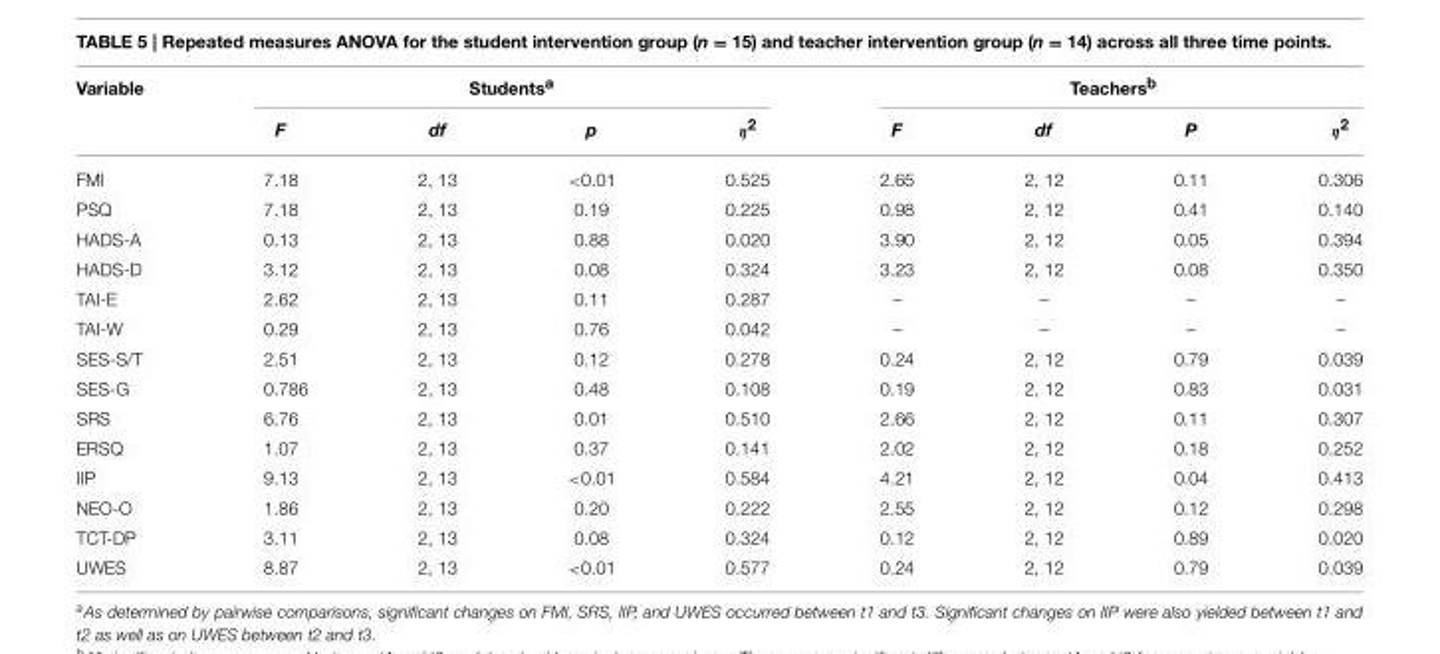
<table><thead><tr><td rowspan="2">Variable</td><td colspan="4">Students<sup>a</sup></td><td colspan="4">Teachers<sup>b</sup></td></tr><tr><td>F</td><td>df</td><td>p</td><td>η<sup>2</sup></td><td>F</td><td>df</td><td>P</td><td>η<sup>2</sup></td></tr></thead><tbody><tr><td>FMI</td><td>7.18</td><td>2, 13</td><td>&lt;0.01</td><td>0.525</td><td>2.65</td><td>2, 12</td><td>0.11</td><td>0.306</td></tr><tr><td>PSQ</td><td>7.18</td><td>2, 13</td><td>0.19</td><td>0.225</td><td>0.98</td><td>2, 12</td><td>0.41</td><td>0.140</td></tr><tr><td>HADS-A</td><td>0.13</td><td>2, 13</td><td>0.88</td><td>0.020</td><td>3.90</td><td>2, 12</td><td>0.05</td><td>0.394</td></tr><tr><td>HADS-D</td><td>3.12</td><td>2, 13</td><td>0.08</td><td>0.324</td><td>3.23</td><td>2, 12</td><td>0.08</td><td>0.350</td></tr><tr><td>TAI-E</td><td>2.62</td><td>2, 13</td><td>0.11</td><td>0.287</td><td>–</td><td>–</td><td>–</td><td>–</td></tr><tr><td>TAI-W</td><td>0.29</td><td>2, 13</td><td>0.76</td><td>0.042</td><td>–</td><td>–</td><td>–</td><td>–</td></tr><tr><td>SES-S/T</td><td>2.51</td><td>2, 13</td><td>0.12</td><td>0.278</td><td>0.24</td><td>2, 12</td><td>0.79</td><td>0.039</td></tr><tr><td>SES-G</td><td>0.786</td><td>2, 13</td><td>0.48</td><td>0.108</td><td>0.19</td><td>2, 12</td><td>0.83</td><td>0.031</td></tr><tr><td>SRS</td><td>6.76</td><td>2, 13</td><td>0.01</td><td>0.510</td><td>2.66</td><td>2, 12</td><td>0.11</td><td>0.307</td></tr><tr><td>ERSQ</td><td>1.07</td><td>2, 13</td><td>0.37</td><td>0.141</td><td>2.02</td><td>2, 12</td><td>0.18</td><td>0.252</td></tr><tr><td>IIP</td><td>9.13</td><td>2, 13</td><td>&lt;0.01</td><td>0.584</td><td>4.21</td><td>2, 12</td><td>0.04</td><td>0.413</td></tr><tr><td>NEO-O</td><td>1.86</td><td>2, 13</td><td>0.20</td><td>0.222</td><td>2.55</td><td>2, 12</td><td>0.12</td><td>0.298</td></tr><tr><td>TCT-DP</td><td>3.11</td><td>2, 13</td><td>0.08</td><td>0.324</td><td>0.12</td><td>2, 12</td><td>0.89</td><td>0.020</td></tr><tr><td>UWES</td><td>8.87</td><td>2, 13</td><td>&lt;0.01</td><td>0.577</td><td>0.24</td><td>2, 12</td><td>0.79</td><td>0.039</td></tr></tbody></table>